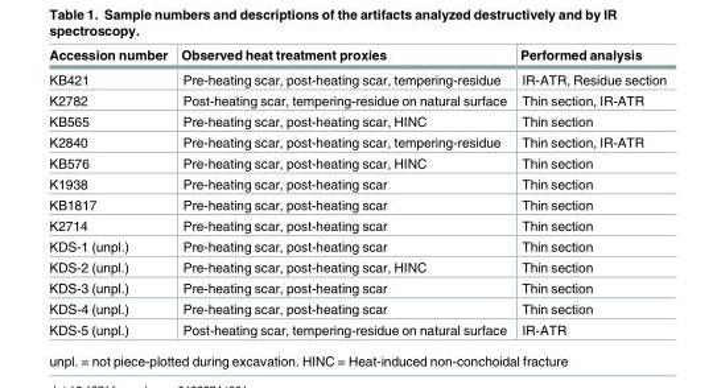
<table><thead><tr><td>Accession number</td><td>Observed heat treatment proxies</td><td>Performed analysis</td></tr></thead><tbody><tr><td>KB421</td><td>Pre-heating scar, post-heating scar, tempering-residue</td><td>IR-ATR, Residue section</td></tr><tr><td>K2782</td><td>Post-heating scar, tempering-residue on natural surface</td><td>Thin section, IR-ATR</td></tr><tr><td>KB565</td><td>Pre-heating scar, post-heating scar, HINC</td><td>Thin section</td></tr><tr><td>K2840</td><td>Pre-heating scar, post-heating scar, tempering-residue</td><td>Thin section, IR-ATR</td></tr><tr><td>KB576</td><td>Pre-heating scar, post-heating scar, HINC</td><td>Thin section</td></tr><tr><td>K1938</td><td>Pre-heating scar, post-heating scar</td><td>Thin section</td></tr><tr><td>KB1817</td><td>Pre-heating scar, post-heating scar</td><td>Thin section</td></tr><tr><td>K2714</td><td>Pre-heating scar, post-heating scar</td><td>Thin section</td></tr><tr><td>KDS-1 (unpl.)</td><td>Pre-heating scar, post-heating scar</td><td>Thin section</td></tr><tr><td>KDS-2 (unpl.)</td><td>Pre-heating scar, post-heating scar, HINC</td><td>Thin section</td></tr><tr><td>KDS-3 (unpl.)</td><td>Pre-heating scar, post-heating scar</td><td>Thin section</td></tr><tr><td>KDS-4 (unpl.)</td><td>Pre-heating scar, post-heating scar</td><td>Thin section</td></tr><tr><td>KDS-5 (unpl.)</td><td>Post-heating scar, tempering-residue on natural surface</td><td>IR-ATR</td></tr></tbody></table>